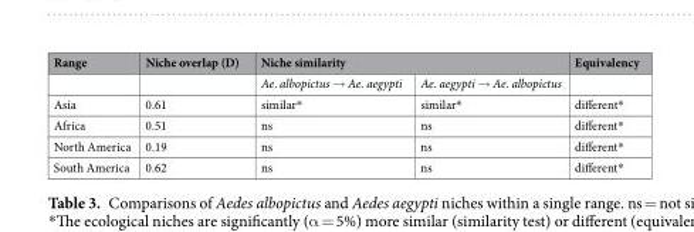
<table><thead><tr><td rowspan="2">Range</td><td rowspan="2">Niche overlap (D)</td><td colspan="2">Niche similarity</td><td rowspan="2">Equivalency</td></tr><tr><td>Ae. albopictus → Ae. aegypti</td><td>Ae. aegypti → Ae. albopictus</td></tr></thead><tbody><tr><td>Asia</td><td>0.61</td><td>similar*</td><td>similar*</td><td>different*</td></tr><tr><td>Africa</td><td>0.51</td><td>ns</td><td>ns</td><td>different*</td></tr><tr><td>North America</td><td>0.19</td><td>ns</td><td>ns</td><td>different*</td></tr><tr><td>South America</td><td>0.62</td><td>ns</td><td>ns</td><td>different*</td></tr></tbody></table>